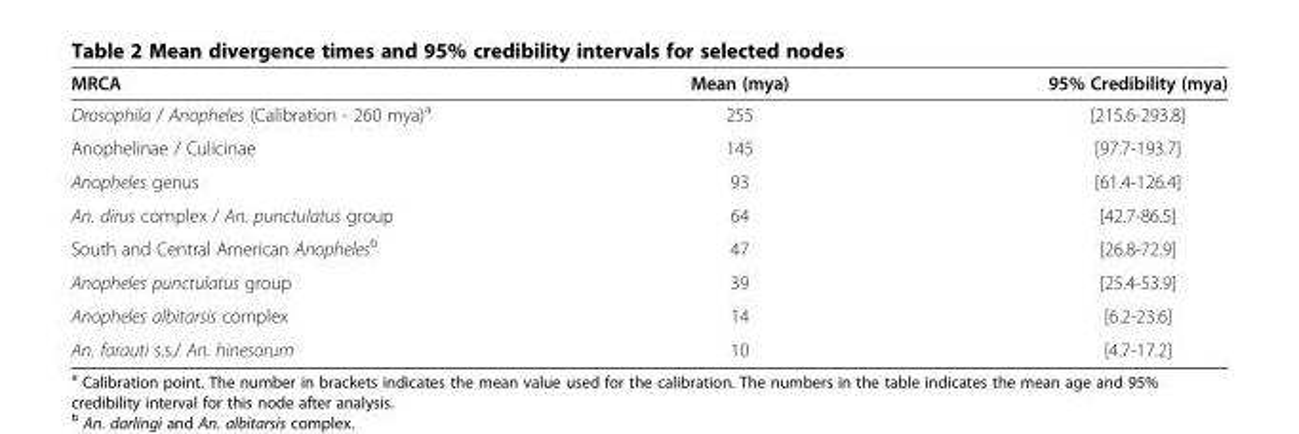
<table><thead><tr><td>MRCA</td><td>Mean (mya)</td><td>95% Credibility (mya)</td></tr></thead><tbody><tr><td>Drosophila / Anopheles (Calibration - 260 mya)<sup>a</sup></td><td>255</td><td>[215.6-293.8]</td></tr><tr><td>Anophelinae / Culicinae</td><td>145</td><td>[97.7-193.7]</td></tr><tr><td>Anopheles genus</td><td>93</td><td>[61.4-126.4]</td></tr><tr><td>An. dirus complex / An. punctulatus group</td><td>64</td><td>[42.7-86.5]</td></tr><tr><td>South and Central American Anopheles<sup>b</sup></td><td>47</td><td>[26.8-72.9]</td></tr><tr><td>Anopheles punctulatus group</td><td>39</td><td>[25.4-53.9]</td></tr><tr><td>Anopheles albitarsis complex</td><td>14</td><td>[6.2-23.6]</td></tr><tr><td>An. farauti s.s./ An. hinesorum</td><td>10</td><td>[4.7-17.2]</td></tr></tbody></table>